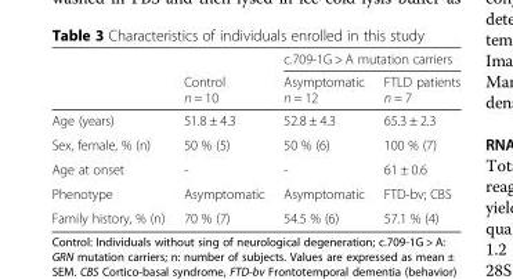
<table><thead><tr><td rowspan="2"></td><td rowspan="2">Control n = 10</td><td colspan="2">c.709-1G &gt; A mutation carriers</td></tr><tr><td>Asymptomatic n = 12</td><td>FTLD patients n = 7</td></tr></thead><tbody><tr><td>Age (years)</td><td>51.8 ± 4.3</td><td>52.8 ± 4.3</td><td>65.3 ± 2.3</td></tr><tr><td>Sex, female, % (n)</td><td>50 % (5)</td><td>50 % (6)</td><td>100 % (7)</td></tr><tr><td>Age at onset</td><td>-</td><td>-</td><td>61 ± 0.6</td></tr><tr><td>Phenotype</td><td>Asymptomatic</td><td>Asymptomatic</td><td>FTD-bv; CBS</td></tr><tr><td>Family history, % (n)</td><td>70 % (7)</td><td>54.5 % (6)</td><td>57.1 % (4)</td></tr></tbody></table>